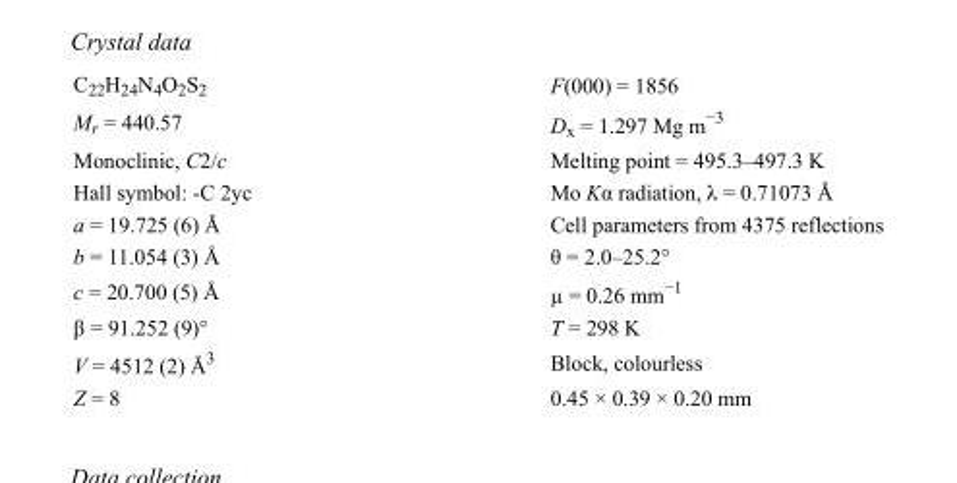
<table><tbody><tr><td>C<sub>22</sub>H<sub>24</sub>N<sub>4</sub>O<sub>2</sub>S<sub>2</sub></td><td>F(000) = 1856</td></tr><tr><td>M<sub>r</sub> = 440.57</td><td>D<sub>x</sub> = 1.297 Mg m<sup>−3</sup></td></tr><tr><td>Monoclinic, C2/c</td><td>Melting point = 495.3–497.3 K</td></tr><tr><td>Hall symbol: -C 2yc</td><td>Mo Kα radiation, λ = 0.71073 Å</td></tr><tr><td>a = 19.725 (6) Å</td><td>Cell parameters from 4375 reflections</td></tr><tr><td>b = 11.054 (3) Å</td><td>θ = 2.0–25.2°</td></tr><tr><td>c = 20.700 (5) Å</td><td>µ = 0.26 mm<sup>−1</sup></td></tr><tr><td>β = 91.252 (9)°</td><td>T = 298 K</td></tr><tr><td>V = 4512 (2) Å<sup>3</sup></td><td>Block, colourless</td></tr><tr><td>Z = 8</td><td>0.45 × 0.39 × 0.20 mm</td></tr></tbody></table>